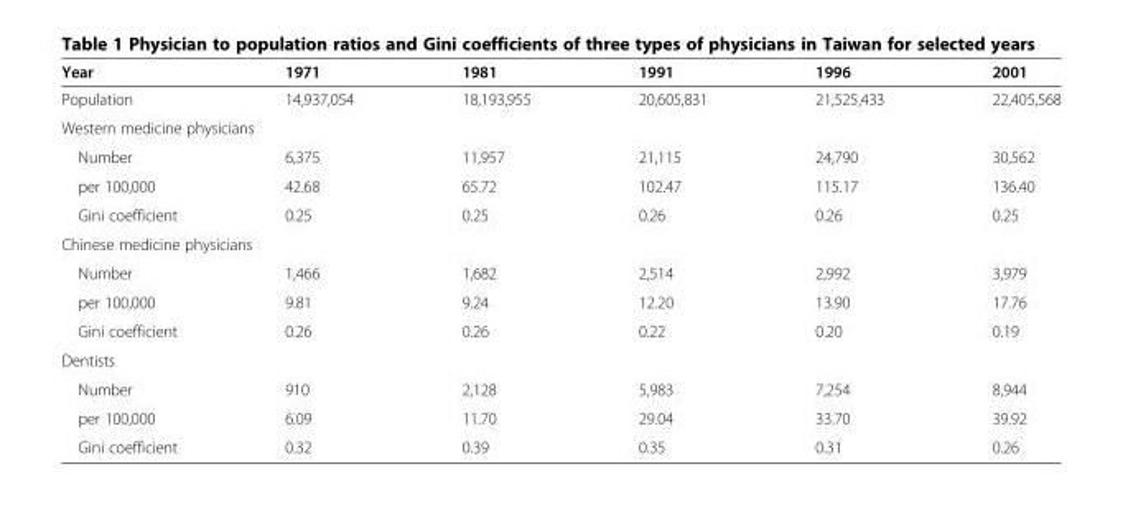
<table><thead><tr><td>Year</td><td>1971</td><td>1981</td><td>1991</td><td>1996</td><td>2001</td></tr></thead><tbody><tr><td>Population</td><td>14,937,054</td><td>18,193,955</td><td>20,605,831</td><td>21,525,433</td><td>22,405,568</td></tr><tr><td colspan="6">Western medicine physicians</td></tr><tr><td>Number</td><td>6,375</td><td>11,957</td><td>21,115</td><td>24,790</td><td>30,562</td></tr><tr><td>per 100,000</td><td>42.68</td><td>65.72</td><td>102.47</td><td>115.17</td><td>136.40</td></tr><tr><td>Gini coefficient</td><td>0.25</td><td>0.25</td><td>0.26</td><td>0.26</td><td>0.25</td></tr><tr><td colspan="6">Chinese medicine physicians</td></tr><tr><td>Number</td><td>1,466</td><td>1,682</td><td>2,514</td><td>2,992</td><td>3,979</td></tr><tr><td>per 100,000</td><td>9.81</td><td>9.24</td><td>12.20</td><td>13.90</td><td>17.76</td></tr><tr><td>Gini coefficient</td><td>0.26</td><td>0.26</td><td>0.22</td><td>0.20</td><td>0.19</td></tr><tr><td colspan="6">Dentists</td></tr><tr><td>Number</td><td>910</td><td>2,128</td><td>5,983</td><td>7,254</td><td>8,944</td></tr><tr><td>per 100,000</td><td>6.09</td><td>11.70</td><td>29.04</td><td>33.70</td><td>39.92</td></tr><tr><td>Gini coefficient</td><td>0.32</td><td>0.39</td><td>0.35</td><td>0.31</td><td>0.26</td></tr></tbody></table>